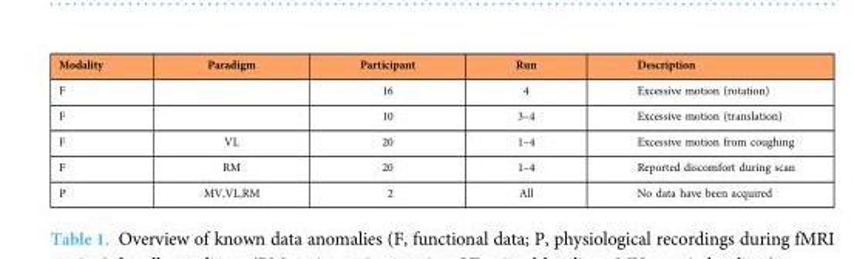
<table><thead><tr><td>Modality</td><td>Paradigm</td><td>Participant</td><td>Run</td><td>Description</td></tr></thead><tbody><tr><td>F</td><td></td><td>16</td><td>4</td><td>Excessive motion (rotation)</td></tr><tr><td>F</td><td></td><td>10</td><td>3–4</td><td>Excessive motion (translation)</td></tr><tr><td>F</td><td>VL</td><td>20</td><td>1–4</td><td>Excessive motion from coughing</td></tr><tr><td>F</td><td>RM</td><td>20</td><td>1–4</td><td>Reported discomfort during scan</td></tr><tr><td>P</td><td>MV,VL,RM</td><td>2</td><td>All</td><td>No data have been acquired</td></tr></tbody></table>